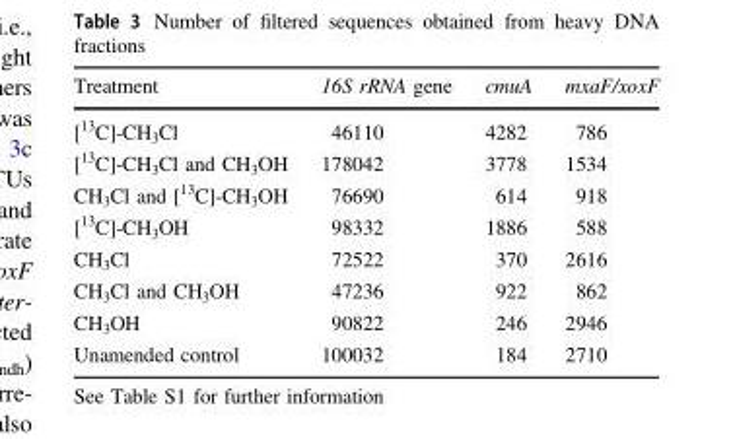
<table><thead><tr><td>Treatment</td><td>16S rRNA gene</td><td>cmuA</td><td>mxaF/xoxF</td></tr></thead><tbody><tr><td>[<sup>13</sup>C]-CH<sub>3</sub>Cl</td><td>46110</td><td>4282</td><td>786</td></tr><tr><td>[<sup>13</sup>C]-CH<sub>3</sub>Cl and CH<sub>3</sub>OH</td><td>178042</td><td>3778</td><td>1534</td></tr><tr><td>CH<sub>3</sub>Cl and [<sup>13</sup>C]-CH<sub>3</sub>OH</td><td>76690</td><td>614</td><td>918</td></tr><tr><td>[<sup>13</sup>C]-CH<sub>3</sub>OH</td><td>98332</td><td>1886</td><td>588</td></tr><tr><td>CH<sub>3</sub>Cl</td><td>72522</td><td>370</td><td>2616</td></tr><tr><td>CH<sub>3</sub>Cl and CH<sub>3</sub>OH</td><td>47236</td><td>922</td><td>862</td></tr><tr><td>CH<sub>3</sub>OH</td><td>90822</td><td>246</td><td>2946</td></tr><tr><td>Unamended control</td><td>100032</td><td>184</td><td>2710</td></tr></tbody></table>